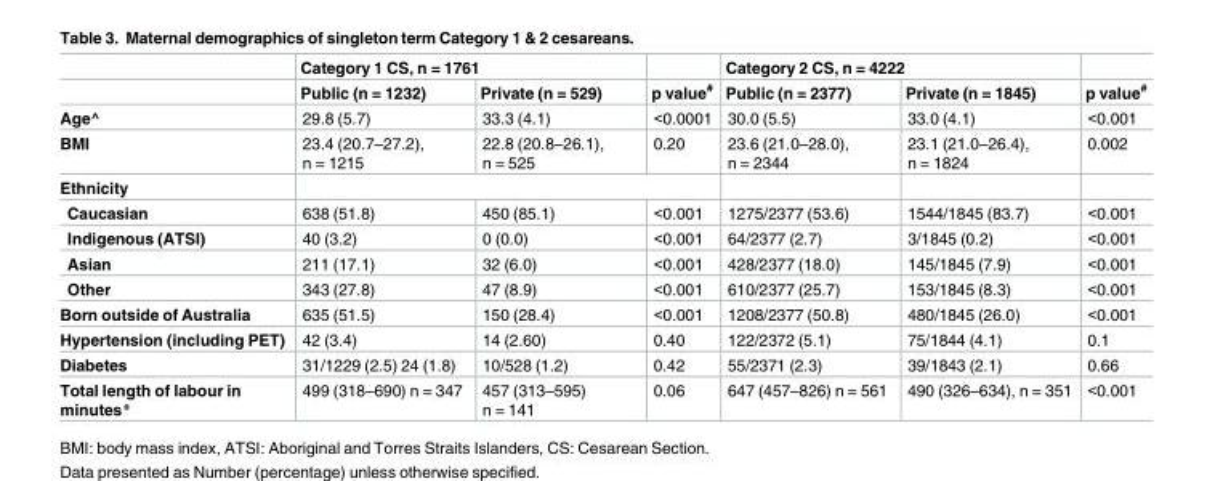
<table><thead><tr><td rowspan="2"></td><td colspan="2">Category 1 CS, n = 1761</td><td rowspan="2">p value<sup>#</sup></td><td colspan="2">Category 2 CS, n = 4222</td><td rowspan="2">p value<sup>#</sup></td></tr><tr><td>Public (n = 1232)</td><td>Private (n = 529)</td><td>Public (n = 2377)</td><td>Private (n = 1845)</td></tr></thead><tbody><tr><td>Age^</td><td>29.8 (5.7)</td><td>33.3 (4.1)</td><td>&lt;0.0001</td><td>30.0 (5.5)</td><td>33.0 (4.1)</td><td>&lt;0.001</td></tr><tr><td>BMI</td><td>23.4 (20.7–27.2), n = 1215</td><td>22.8 (20.8–26.1), n = 525</td><td>0.20</td><td>23.6 (21.0–28.0), n = 2344</td><td>23.1 (21.0–26.4), n = 1824</td><td>0.002</td></tr><tr><td colspan="7">Ethnicity</td></tr><tr><td>Caucasian</td><td>638 (51.8)</td><td>450 (85.1)</td><td>&lt;0.001</td><td>1275/2377 (53.6)</td><td>1544/1845 (83.7)</td><td>&lt;0.001</td></tr><tr><td>Indigenous (ATSI)</td><td>40 (3.2)</td><td>0 (0.0)</td><td>&lt;0.001</td><td>64/2377 (2.7)</td><td>3/1845 (0.2)</td><td>&lt;0.001</td></tr><tr><td>Asian</td><td>211 (17.1)</td><td>32 (6.0)</td><td>&lt;0.001</td><td>428/2377 (18.0)</td><td>145/1845 (7.9)</td><td>&lt;0.001</td></tr><tr><td>Other</td><td>343 (27.8)</td><td>47 (8.9)</td><td>&lt;0.001</td><td>610/2377 (25.7)</td><td>153/1845 (8.3)</td><td>&lt;0.001</td></tr><tr><td>Born outside of Australia</td><td>635 (51.5)</td><td>150 (28.4)</td><td>&lt;0.001</td><td>1208/2377 (50.8)</td><td>480/1845 (26.0)</td><td>&lt;0.001</td></tr><tr><td>Hypertension (including PET)</td><td>42 (3.4)</td><td>14 (2.60)</td><td>0.40</td><td>122/2372 (5.1)</td><td>75/1844 (4.1)</td><td>0.1</td></tr><tr><td>Diabetes</td><td>31/1229 (2.5) 24 (1.8)</td><td>10/528 (1.2)</td><td>0.42</td><td>55/2371 (2.3)</td><td>39/1843 (2.1)</td><td>0.66</td></tr><tr><td>Total length of labour in minutes*</td><td>499 (318–690) n = 347</td><td>457 (313–595) n = 141</td><td>0.06</td><td>647 (457–826) n = 561</td><td>490 (326–634), n = 351</td><td>&lt;0.001</td></tr></tbody></table>